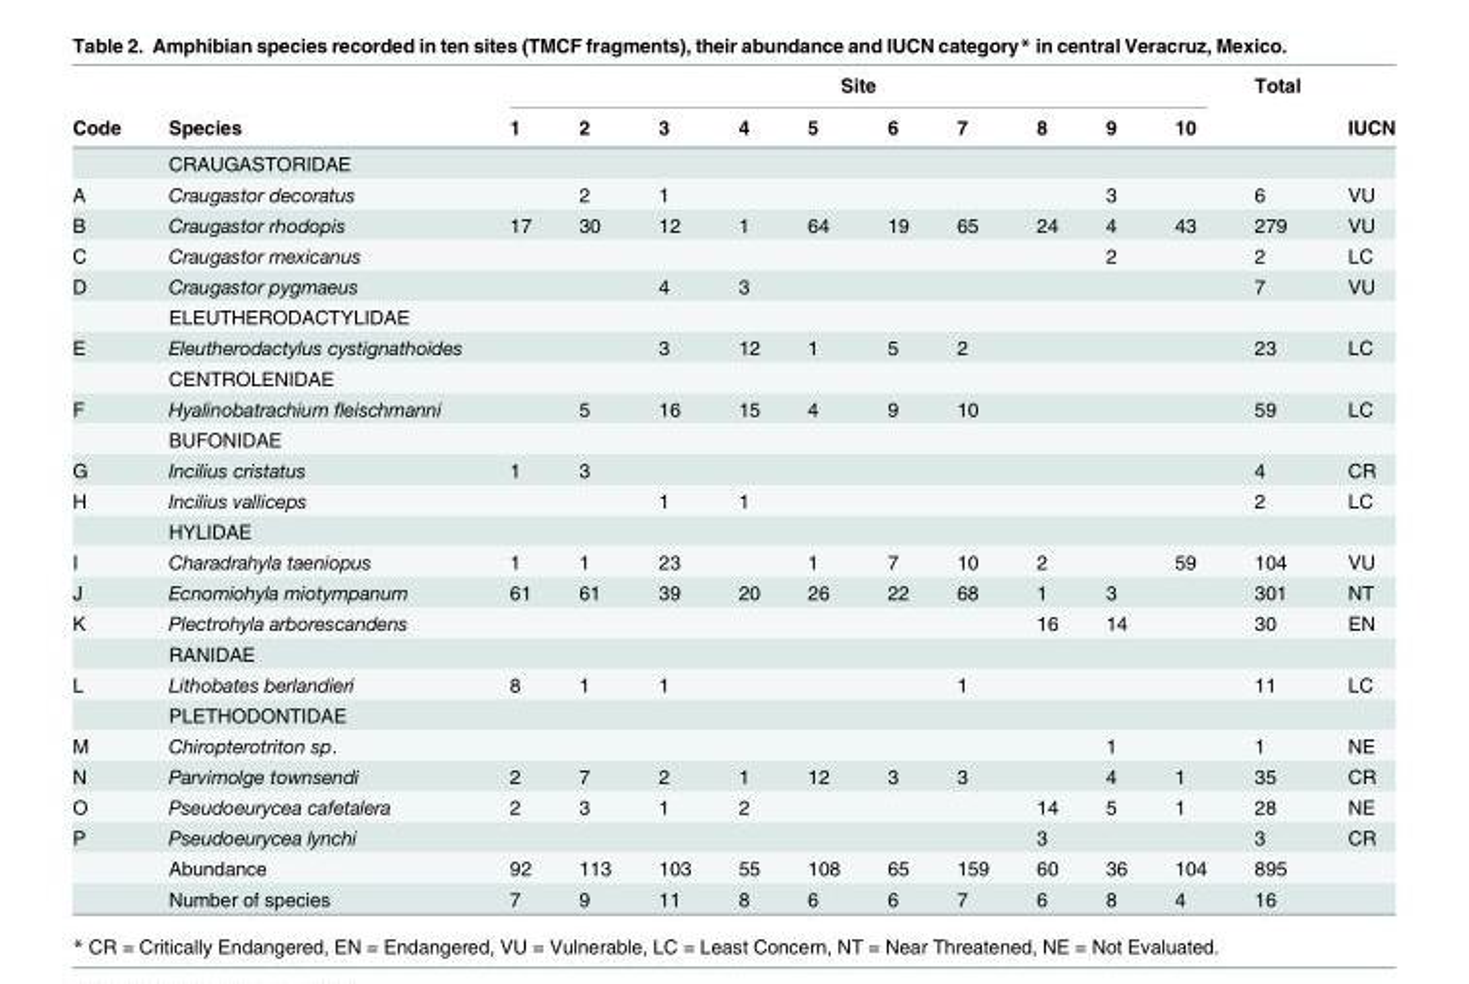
<table><thead><tr><td rowspan="2">Code</td><td rowspan="2">Species</td><td colspan="10">Site</td><td rowspan="2">Total</td><td rowspan="2">IUCN</td></tr><tr><td>1</td><td>2</td><td>3</td><td>4</td><td>5</td><td>6</td><td>7</td><td>8</td><td>9</td><td>10</td></tr></thead><tbody><tr><td></td><td>CRAUGASTORIDAE</td><td></td><td></td><td></td><td></td><td></td><td></td><td></td><td></td><td></td><td></td><td></td><td></td></tr><tr><td>A</td><td>Craugastor decoratus</td><td></td><td>2</td><td>1</td><td></td><td></td><td></td><td></td><td></td><td>3</td><td></td><td>6</td><td>VU</td></tr><tr><td>B</td><td>Craugastor rhodopis</td><td>17</td><td>30</td><td>12</td><td>1</td><td>64</td><td>19</td><td>65</td><td>24</td><td>4</td><td>43</td><td>279</td><td>VU</td></tr><tr><td>C</td><td>Craugastor mexicanus</td><td></td><td></td><td></td><td></td><td></td><td></td><td></td><td></td><td>2</td><td></td><td>2</td><td>LC</td></tr><tr><td rowspan="2">D</td><td>Craugastor pygmaeus</td><td></td><td></td><td>4</td><td>3</td><td></td><td></td><td></td><td></td><td></td><td></td><td>7</td><td>VU</td></tr><tr><td>ELEUTHERODACTYLIDAE</td><td></td><td></td><td></td><td></td><td></td><td></td><td></td><td></td><td></td><td></td><td></td><td></td></tr><tr><td rowspan="2">E</td><td>Eleutherodactylus cystignathoides</td><td></td><td></td><td>3</td><td>12</td><td>1</td><td>5</td><td>2</td><td></td><td></td><td></td><td>23</td><td>LC</td></tr><tr><td>CENTROLENIDAE</td><td></td><td></td><td></td><td></td><td></td><td></td><td></td><td></td><td></td><td></td><td></td><td></td></tr><tr><td rowspan="2">F</td><td>Hyalinobatrachium fleischmanni</td><td></td><td>5</td><td>16</td><td>15</td><td>4</td><td>9</td><td>10</td><td></td><td></td><td></td><td>59</td><td>LC</td></tr><tr><td>BUFONIDAE</td><td></td><td></td><td></td><td></td><td></td><td></td><td></td><td></td><td></td><td></td><td></td><td></td></tr><tr><td>G</td><td>Incilius cristatus</td><td>1</td><td>3</td><td></td><td></td><td></td><td></td><td></td><td></td><td></td><td></td><td>4</td><td>CR</td></tr><tr><td rowspan="2">H</td><td>Incilius valliceps</td><td></td><td></td><td>1</td><td>1</td><td></td><td></td><td></td><td></td><td></td><td></td><td>2</td><td>LC</td></tr><tr><td>HYLIDAE</td><td></td><td></td><td></td><td></td><td></td><td></td><td></td><td></td><td></td><td></td><td></td><td></td></tr><tr><td>I</td><td>Charadrahyla taeniopus</td><td>1</td><td>1</td><td>23</td><td></td><td>1</td><td>7</td><td>10</td><td>2</td><td></td><td>59</td><td>104</td><td>VU</td></tr><tr><td>J</td><td>Ecnomiohyla miotympanum</td><td>61</td><td>61</td><td>39</td><td>20</td><td>26</td><td>22</td><td>68</td><td>1</td><td>3</td><td></td><td>301</td><td>NT</td></tr><tr><td rowspan="2">K</td><td>Plectrohyla arborescandens</td><td></td><td></td><td></td><td></td><td></td><td></td><td></td><td>16</td><td>14</td><td></td><td>30</td><td>EN</td></tr><tr><td>RANIDAE</td><td></td><td></td><td></td><td></td><td></td><td></td><td></td><td></td><td></td><td></td><td></td><td></td></tr><tr><td rowspan="2">L</td><td>Lithobates berlandieri</td><td>8</td><td>1</td><td>1</td><td></td><td></td><td></td><td>1</td><td></td><td></td><td></td><td>11</td><td>LC</td></tr><tr><td>PLETHODONTIDAE</td><td></td><td></td><td></td><td></td><td></td><td></td><td></td><td></td><td></td><td></td><td></td><td></td></tr><tr><td>M</td><td>Chiropterotriton sp.</td><td></td><td></td><td></td><td></td><td></td><td></td><td></td><td></td><td>1</td><td></td><td>1</td><td>NE</td></tr><tr><td>N</td><td>Parvimolge townsendi</td><td>2</td><td>7</td><td>2</td><td>1</td><td>12</td><td>3</td><td>3</td><td></td><td>4</td><td>1</td><td>35</td><td>CR</td></tr><tr><td>O</td><td>Pseudoeurycea cafetalera</td><td>2</td><td>3</td><td>1</td><td>2</td><td></td><td></td><td></td><td>14</td><td>5</td><td>1</td><td>28</td><td>NE</td></tr><tr><td rowspan="3">P</td><td>Pseudoeurycea lynchi</td><td></td><td></td><td></td><td></td><td></td><td></td><td></td><td>3</td><td></td><td></td><td>3</td><td>CR</td></tr><tr><td>Abundance</td><td>92</td><td>113</td><td>103</td><td>55</td><td>108</td><td>65</td><td>159</td><td>60</td><td>36</td><td>104</td><td>895</td><td></td></tr><tr><td>Number of species</td><td>7</td><td>9</td><td>11</td><td>8</td><td>6</td><td>6</td><td>7</td><td>6</td><td>8</td><td>4</td><td>16</td><td></td></tr></tbody></table>